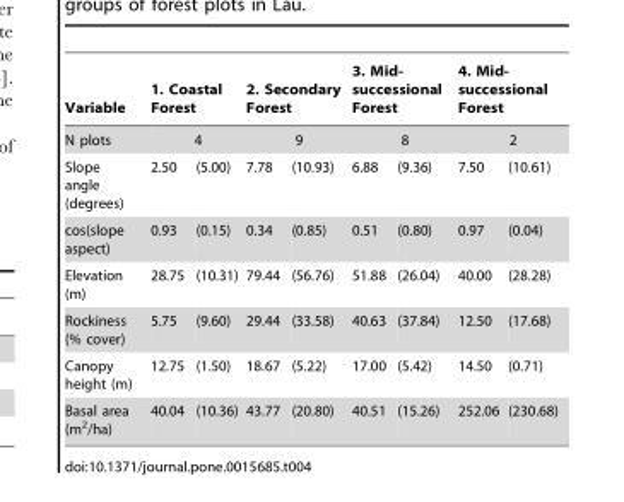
<table><thead><tr><td rowspan="3">Variable N plots Slope angle (degrees)</td><td rowspan="2" colspan="2">1. Coastal Forest 4</td><td rowspan="2" colspan="2">2. Secondary Forest 9</td><td rowspan="2" colspan="2">3. Mid- successional Forest 8</td><td rowspan="2" colspan="2">4. Mid- successional Forest 2</td></tr><tr></tr><tr><td>2.50</td><td>(5.00)</td><td>7.78</td><td>(10.93)</td><td>6.88</td><td>(9.36)</td><td>7.50</td><td>(10.61)</td></tr></thead><tbody><tr><td>cos(slope aspect)</td><td>0.93</td><td>(0.15)</td><td>0.34</td><td>(0.85)</td><td>0.51</td><td>(0.80)</td><td>0.97</td><td>(0.04)</td></tr><tr><td>Elevation (m)</td><td>28.75</td><td>(10.31)</td><td>79.44</td><td>(56.76)</td><td>51.88</td><td>(26.04)</td><td>40.00</td><td>(28.28)</td></tr><tr><td>Rockiness (% cover)</td><td>5.75</td><td>(9.60)</td><td>29.44</td><td>(33.58)</td><td>40.63</td><td>(37.84)</td><td>12.50</td><td>(17.68)</td></tr><tr><td>Canopy height (m)</td><td>12.75</td><td>(1.50)</td><td>18.67</td><td>(5.22)</td><td>17.00</td><td>(5.42)</td><td>14.50</td><td>(0.71)</td></tr><tr><td>Basal area (m<sup>2</sup>/ha)</td><td>40.04</td><td>(10.36)</td><td>43.77</td><td>(20.80)</td><td>40.51</td><td>(15.26)</td><td>252.06</td><td>(230.68)</td></tr></tbody></table>